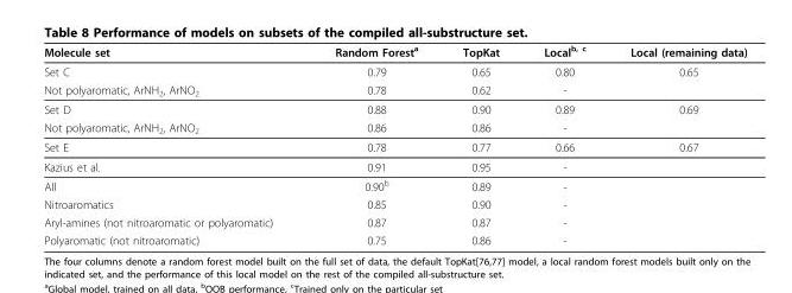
<table><thead><tr><td>Molecule set</td><td>Random Forest<sup>a</sup></td><td>TopKat</td><td>Local<sup>b, c</sup></td><td>Local (remaining data)</td></tr></thead><tbody><tr><td>Set C</td><td>0.79</td><td>0.65</td><td>0.80</td><td>0.65</td></tr><tr><td>Not polyaromatic, ArNH<sub>2</sub>, ArNO<sub>2</sub></td><td>0.78</td><td>0.62</td><td>-</td><td></td></tr><tr><td>Set D</td><td>0.88</td><td>0.90</td><td>0.89</td><td>0.69</td></tr><tr><td>Not polyaromatic, ArNH<sub>2</sub>, ArNO<sub>2</sub></td><td>0.86</td><td>0.86</td><td>-</td><td></td></tr><tr><td>Set E</td><td>0.78</td><td>0.77</td><td>0.66</td><td>0.67</td></tr><tr><td>Kazius et al.</td><td>0.91</td><td>0.95</td><td>-</td><td></td></tr><tr><td>All</td><td>0.90<sup>b</sup></td><td>0.89</td><td>-</td><td></td></tr><tr><td>Nitroaromatics</td><td>0.85</td><td>0.90</td><td>-</td><td></td></tr><tr><td>Aryl-amines (not nitroaromatic or polyaromatic)</td><td>0.87</td><td>0.87</td><td>-</td><td></td></tr><tr><td>Polyaromatic (not nitroaromatic)</td><td>0.75</td><td>0.86</td><td>-</td><td></td></tr></tbody></table>